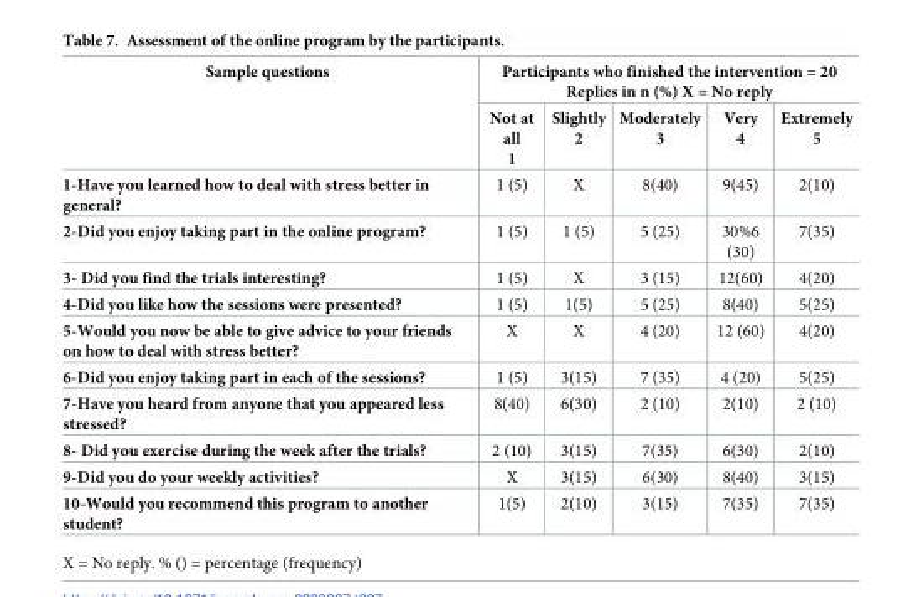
<table><thead><tr><td rowspan="2">Sample questions</td><td colspan="5">Participants who finished the intervention = 20 Replies in n (%) X = No reply</td></tr><tr><td>Not at all 1</td><td>Slightly 2</td><td>Moderately 3</td><td>Very 4</td><td>Extremely 5</td></tr></thead><tbody><tr><td>1-Have you learned how to deal with stress better in general?</td><td>1 (5)</td><td>X</td><td>8(40)</td><td>9(45)</td><td>2(10)</td></tr><tr><td>2-Did you enjoy taking part in the online program?</td><td>1 (5)</td><td>1 (5)</td><td>5 (25)</td><td>30%6 (30)</td><td>7(35)</td></tr><tr><td>3- Did you find the trials interesting?</td><td>1 (5)</td><td>X</td><td>3 (15)</td><td>12(60)</td><td>4(20)</td></tr><tr><td>4-Did you like how the sessions were presented?</td><td>1 (5)</td><td>1(5)</td><td>5 (25)</td><td>8(40)</td><td>5(25)</td></tr><tr><td>5-Would you now be able to give advice to your friends on how to deal with stress better?</td><td>X</td><td>X</td><td>4 (20)</td><td>12 (60)</td><td>4(20)</td></tr><tr><td>6-Did you enjoy taking part in each of the sessions?</td><td>1 (5)</td><td>3(15)</td><td>7 (35)</td><td>4 (20)</td><td>5(25)</td></tr><tr><td>7-Have you heard from anyone that you appeared less stressed?</td><td>8(40)</td><td>6(30)</td><td>2 (10)</td><td>2(10)</td><td>2 (10)</td></tr><tr><td>8- Did you exercise during the week after the trials?</td><td>2 (10)</td><td>3(15)</td><td>7(35)</td><td>6(30)</td><td>2(10)</td></tr><tr><td>9-Did you do your weekly activities?</td><td>X</td><td>3(15)</td><td>6(30)</td><td>8(40)</td><td>3(15)</td></tr><tr><td>10-Would you recommend this program to another student?</td><td>1(5)</td><td>2(10)</td><td>3(15)</td><td>7(35)</td><td>7(35)</td></tr></tbody></table>